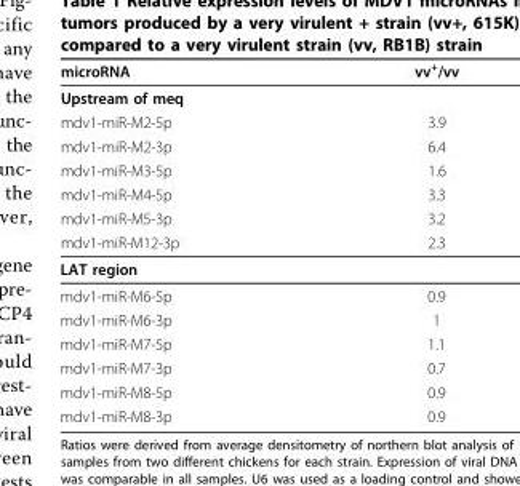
<table><thead><tr><td>microRNA</td><td>vv<sup>+</sup>/vv</td></tr></thead><tbody><tr><td colspan="2">Upstream of meq</td></tr><tr><td>mdv1-miR-M2-5p</td><td>3.9</td></tr><tr><td>mdv1-miR-M2-3p</td><td>6.4</td></tr><tr><td>mdv1-miR-M3-5p</td><td>1.6</td></tr><tr><td>mdv1-miR-M4-5p</td><td>3.3</td></tr><tr><td>mdv1-miR-M5-3p</td><td>3.2</td></tr><tr><td>mdv1-miR-M12-3p</td><td>2.3</td></tr><tr><td colspan="2">LAT region</td></tr><tr><td>mdv1-miR-M6-5p</td><td>0.9</td></tr><tr><td>mdv1-miR-M6-3p</td><td>1</td></tr><tr><td>mdv1-miR-M7-5p</td><td>1.1</td></tr><tr><td>mdv1-miR-M7-3p</td><td>0.7</td></tr><tr><td>mdv1-miR-M8-5p</td><td>0.9</td></tr><tr><td>mdv1-miR-M8-3p</td><td>0.9</td></tr></tbody></table>